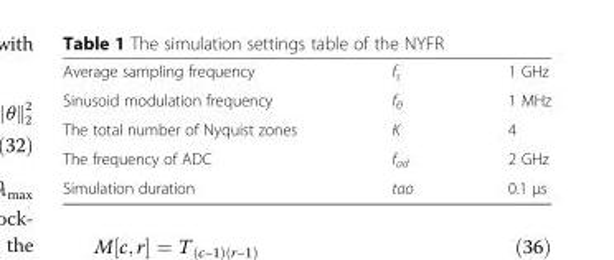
<table><tbody><tr><td>Average sampling frequency</td><td>f<sub>s</sub></td><td>1 GHz</td></tr><tr><td>Sinusoid modulation frequency</td><td>f<sub>θ</sub></td><td>1 MHz</td></tr><tr><td>The total number of Nyquist zones</td><td>K</td><td>4</td></tr><tr><td>The frequency of ADC</td><td>f<sub>ad</sub></td><td>2 GHz</td></tr><tr><td>Simulation duration</td><td>tao</td><td>0.1 μs</td></tr></tbody></table>